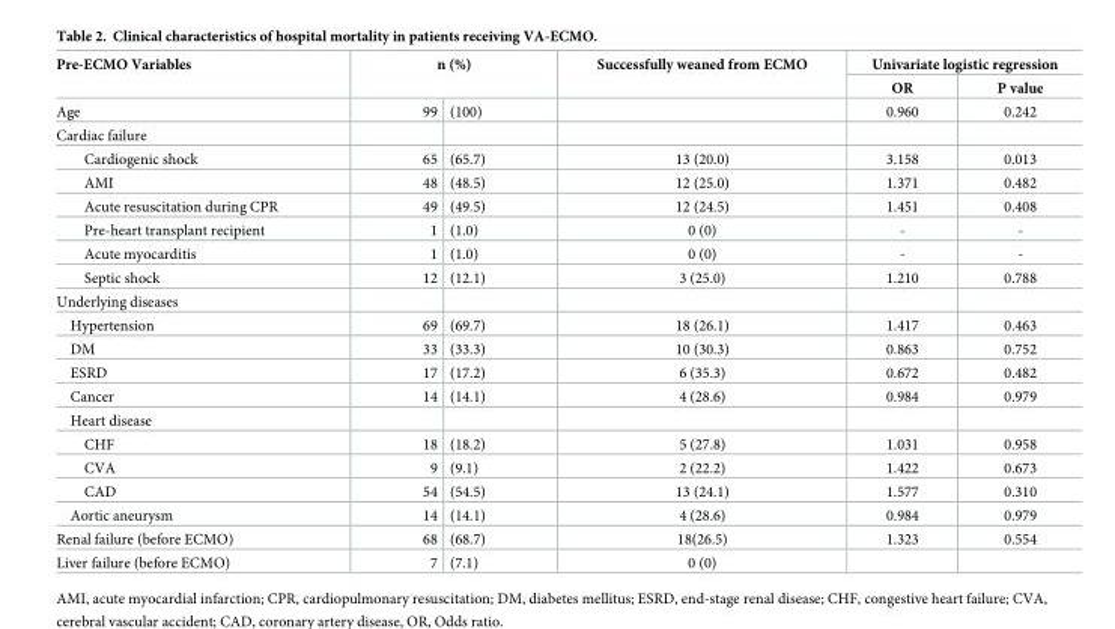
<table><thead><tr><td rowspan="3">Pre-ECMO Variables Age</td><td rowspan="2" colspan="2">n (%)</td><td rowspan="3">Successfully weaned from ECMO</td><td colspan="2">Univariate logistic regression</td></tr><tr><td rowspan="2">OR 0.960</td><td rowspan="2">P value 0.242</td></tr><tr><td>99</td><td>(100)</td></tr></thead><tbody><tr><td colspan="6">Cardiac failure</td></tr><tr><td>Cardiogenic shock</td><td>65</td><td>(65.7)</td><td>13 (20.0)</td><td>3.158</td><td>0.013</td></tr><tr><td>AMI</td><td>48</td><td>(48.5)</td><td>12 (25.0)</td><td>1.371</td><td>0.482</td></tr><tr><td>Acute resuscitation during CPR</td><td>49</td><td>(49.5)</td><td>12 (24.5)</td><td>1.451</td><td>0.408</td></tr><tr><td>Pre-heart transplant recipient</td><td>1</td><td>(1.0)</td><td>0 (0)</td><td>-</td><td>-</td></tr><tr><td>Acute myocarditis</td><td>1</td><td>(1.0)</td><td>0 (0)</td><td>-</td><td>-</td></tr><tr><td>Septic shock</td><td>12</td><td>(12.1)</td><td>3 (25.0)</td><td>1.210</td><td>0.788</td></tr><tr><td colspan="6">Underlying diseases</td></tr><tr><td>Hypertension</td><td>69</td><td>(69.7)</td><td>18 (26.1)</td><td>1.417</td><td>0.463</td></tr><tr><td>DM</td><td>33</td><td>(33.3)</td><td>10 (30.3)</td><td>0.863</td><td>0.752</td></tr><tr><td>ESRD</td><td>17</td><td>(17.2)</td><td>6 (35.3)</td><td>0.672</td><td>0.482</td></tr><tr><td>Cancer</td><td>14</td><td>(14.1)</td><td>4 (28.6)</td><td>0.984</td><td>0.979</td></tr><tr><td colspan="6">Heart disease</td></tr><tr><td>CHF</td><td>18</td><td>(18.2)</td><td>5 (27.8)</td><td>1.031</td><td>0.958</td></tr><tr><td>CVA</td><td>9</td><td>(9.1)</td><td>2 (22.2)</td><td>1.422</td><td>0.673</td></tr><tr><td>CAD</td><td>54</td><td>(54.5)</td><td>13 (24.1)</td><td>1.577</td><td>0.310</td></tr><tr><td>Aortic aneurysm</td><td>14</td><td>(14.1)</td><td>4 (28.6)</td><td>0.984</td><td>0.979</td></tr><tr><td>Renal failure (before ECMO)</td><td>68</td><td>(68.7)</td><td>18(26.5)</td><td>1.323</td><td>0.554</td></tr><tr><td>Liver failure (before ECMO)</td><td>7</td><td>(7.1)</td><td>0 (0)</td><td></td><td></td></tr></tbody></table>